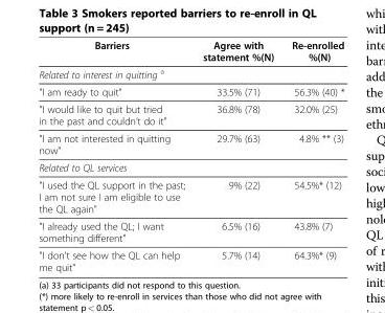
<table><thead><tr><td>Barriers</td><td>Agree with statement %(N)</td><td>Re-enrolled %(N)</td></tr></thead><tbody><tr><td colspan="3">Related to interest in quitting <sup>a</sup></td></tr><tr><td>&quot;I am ready to quit&quot;</td><td>33.5% (71)</td><td>56.3% (40) *</td></tr><tr><td>&quot;I would like to quit but tried in the past and couldn’t do it&quot;</td><td>36.8% (78)</td><td>32.0% (25)</td></tr><tr><td>&quot;I am not interested in quitting now&quot;</td><td>29.7% (63)</td><td>4.8% ** (3)</td></tr><tr><td colspan="3">Related to QL services</td></tr><tr><td>&quot;I used the QL support in the past; I am not sure I am eligible to use the QL again&quot;</td><td>9% (22)</td><td>54.5%* (12)</td></tr><tr><td>&quot;I already used the QL; I want something different&quot;</td><td>6.5% (16)</td><td>43.8% (7)</td></tr><tr><td>&quot;I don&#x27;t see how the QL can help me quit&quot;</td><td>5.7% (14)</td><td>64.3%* (9)</td></tr></tbody></table>